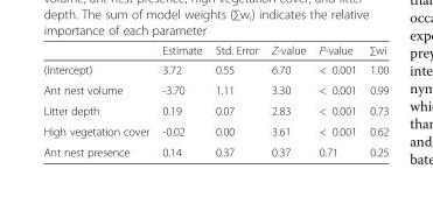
<table><thead><tr><td></td><td>Estimate</td><td>Std. Error</td><td>Z-value</td><td>P-value</td><td>∑wi</td></tr></thead><tbody><tr><td>(Intercept)</td><td>3.72</td><td>0.55</td><td>6.70</td><td>&lt; 0.001</td><td>1.00</td></tr><tr><td>Ant nest volume</td><td>-3.70</td><td>1.11</td><td>3.30</td><td>&lt; 0.001</td><td>0.99</td></tr><tr><td>Litter depth</td><td>0.19</td><td>0.07</td><td>2.83</td><td>&lt; 0.001</td><td>0.73</td></tr><tr><td>High vegetation cover</td><td>-0.02</td><td>0.00</td><td>3.61</td><td>&lt; 0.001</td><td>0.62</td></tr><tr><td>Ant nest presence</td><td>0.14</td><td>0.37</td><td>0.37</td><td>0.71</td><td>0.25</td></tr></tbody></table>